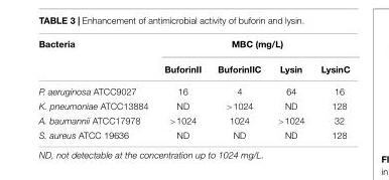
<table><thead><tr><td rowspan="2">Bacteria</td><td colspan="4">MBC (mg/L)</td></tr><tr><td>BuforinII</td><td>BuforinIIC</td><td>Lysin</td><td>LysinC</td></tr></thead><tbody><tr><td>P. aeruginosa ATCC9027</td><td>16</td><td>4</td><td>64</td><td>16</td></tr><tr><td>K. pneumoniae ATCC13884</td><td>ND</td><td>&gt;1024</td><td>ND</td><td>128</td></tr><tr><td>A. baumannii ATCC17978</td><td>&gt;1024</td><td>1024</td><td>&gt;1024</td><td>32</td></tr><tr><td>S. aureus ATCC 19636</td><td>ND</td><td>ND</td><td>ND</td><td>128</td></tr></tbody></table>